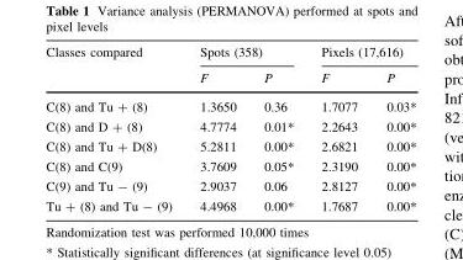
<table><thead><tr><td rowspan="2">Classes compared</td><td colspan="2">Spots (358)</td><td colspan="2">Pixels (17,616)</td></tr><tr><td>F</td><td>P</td><td>F</td><td>P</td></tr></thead><tbody><tr><td>C(8) and Tu + (8)</td><td>1.3650</td><td>0.36</td><td>1.7077</td><td>0.03*</td></tr><tr><td>C(8) and D + (8)</td><td>4.7774</td><td>0.01*</td><td>2.2643</td><td>0.00*</td></tr><tr><td>C(8) and Tu + D(8)</td><td>5.2811</td><td>0.00*</td><td>2.6821</td><td>0.00*</td></tr><tr><td>C(8) and C(9)</td><td>3.7609</td><td>0.05*</td><td>2.3190</td><td>0.00*</td></tr><tr><td>C(9) and Tu - (9)</td><td>2.9037</td><td>0.06</td><td>2.8127</td><td>0.00*</td></tr><tr><td>Tu + (8) and Tu - (9)</td><td>4.4968</td><td>0.00*</td><td>1.7687</td><td>0.00*</td></tr></tbody></table>